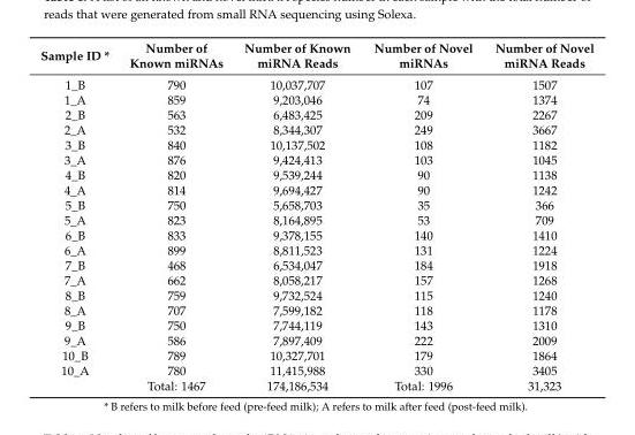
<table><thead><tr><td>Sample ID *</td><td>Number of Known miRNAs</td><td>Number of Known miRNA Reads</td><td>Number of Novel miRNAs</td><td>Number of Novel miRNA Reads</td></tr></thead><tbody><tr><td>1_B</td><td>790</td><td>10,037,707</td><td>107</td><td>1507</td></tr><tr><td>1_A</td><td>859</td><td>9,203,046</td><td>74</td><td>1374</td></tr><tr><td>2_B</td><td>563</td><td>6,483,425</td><td>209</td><td>2267</td></tr><tr><td>2_A</td><td>532</td><td>8,344,307</td><td>249</td><td>3667</td></tr><tr><td>3_B</td><td>840</td><td>10,137,502</td><td>108</td><td>1182</td></tr><tr><td>3_A</td><td>876</td><td>9,424,413</td><td>103</td><td>1045</td></tr><tr><td>4_B</td><td>820</td><td>9,539,244</td><td>90</td><td>1138</td></tr><tr><td>4_A</td><td>814</td><td>9,694,427</td><td>90</td><td>1242</td></tr><tr><td>5_B</td><td>750</td><td>5,658,703</td><td>35</td><td>366</td></tr><tr><td>5_A</td><td>823</td><td>8,164,895</td><td>53</td><td>709</td></tr><tr><td>6_B</td><td>833</td><td>9,378,155</td><td>140</td><td>1410</td></tr><tr><td>6_A</td><td>899</td><td>8,811,523</td><td>131</td><td>1224</td></tr><tr><td>7_B</td><td>468</td><td>6,534,047</td><td>184</td><td>1918</td></tr><tr><td>7_A</td><td>662</td><td>8,058,217</td><td>157</td><td>1268</td></tr><tr><td>8_B</td><td>759</td><td>9,732,524</td><td>115</td><td>1240</td></tr><tr><td>8_A</td><td>707</td><td>7,599,182</td><td>118</td><td>1178</td></tr><tr><td>9_B</td><td>750</td><td>7,744,119</td><td>143</td><td>1310</td></tr><tr><td>9_A</td><td>586</td><td>7,897,409</td><td>222</td><td>2009</td></tr><tr><td>10_B</td><td>789</td><td>10,327,701</td><td>179</td><td>1864</td></tr><tr><td rowspan="2">10_A</td><td>780</td><td>11,415,988</td><td>330</td><td>3405</td></tr><tr><td>Total: 1467</td><td>174,186,534</td><td>Total: 1996</td><td>31,323</td></tr></tbody></table>